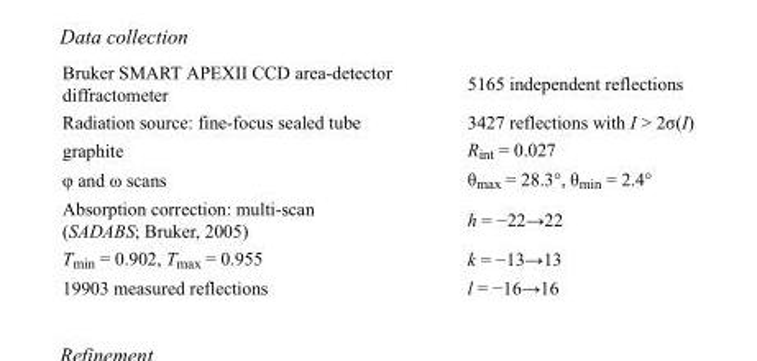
<table><tbody><tr><td>Bruker SMART APEXII CCD area-detector diffractometer</td><td>5165 independent reflections</td></tr><tr><td>Radiation source: fine-focus sealed tube</td><td>3427 reflections with I &gt; 2σ(I)</td></tr><tr><td>graphite</td><td>R<sub>int</sub> = 0.027</td></tr><tr><td>φ and ω scans</td><td>θ<sub>max</sub> = 28.3°, θ<sub>min</sub> = 2.4°</td></tr><tr><td>Absorption correction: multi-scan (SADABS; Bruker, 2005)</td><td>h = −22→22</td></tr><tr><td>T<sub>min</sub> = 0.902, T<sub>max</sub> = 0.955</td><td>k = −13→13</td></tr><tr><td>19903 measured reflections</td><td>l = −16→16</td></tr></tbody></table>